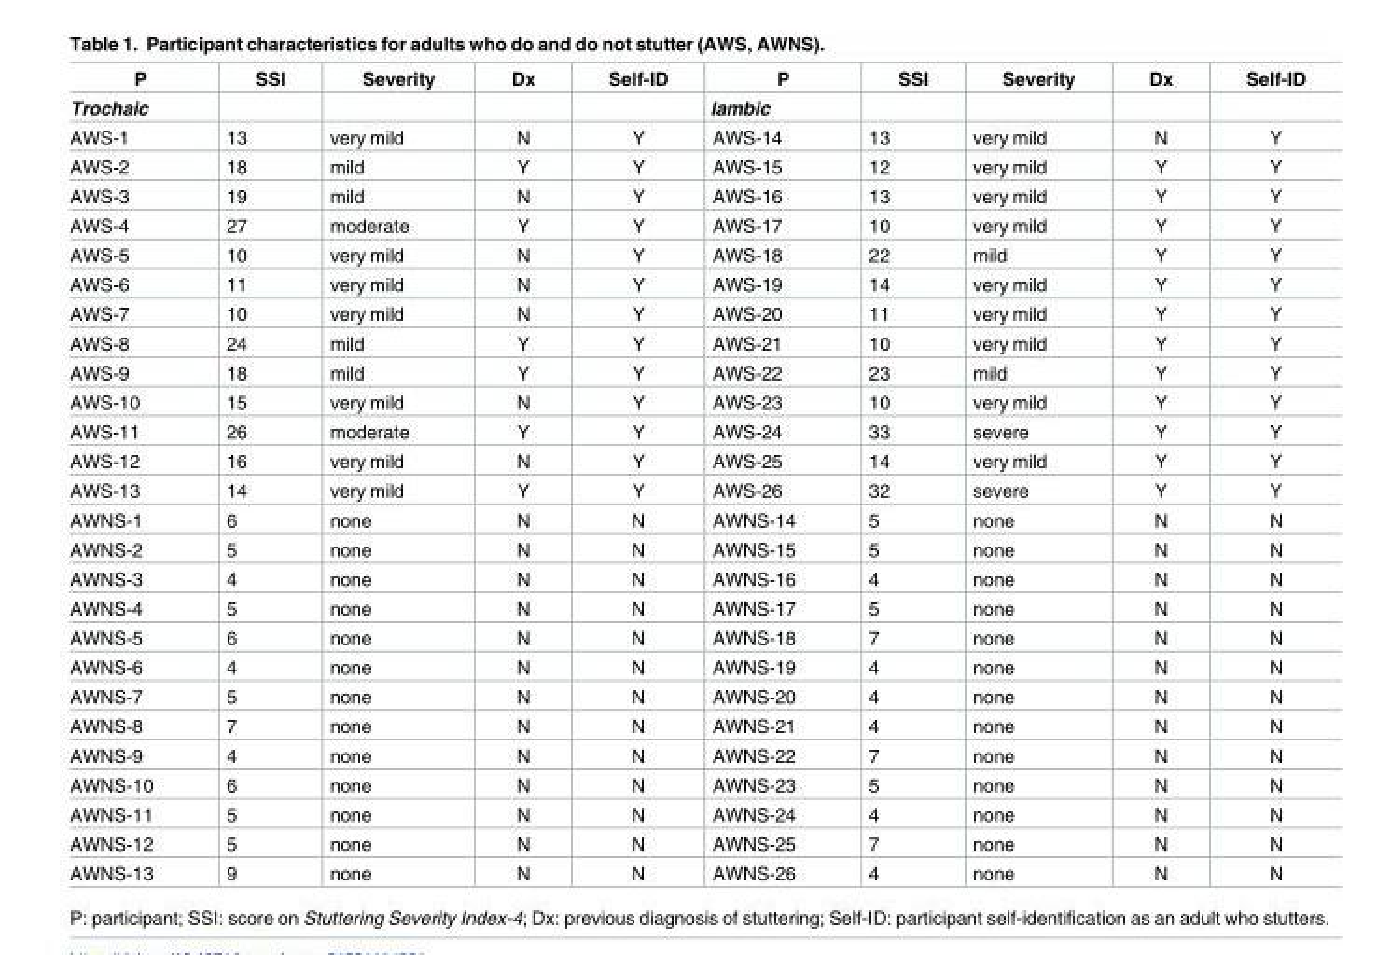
<table><thead><tr><td rowspan="2">P Trochaic</td><td rowspan="2">SSI</td><td rowspan="2">Severity</td><td rowspan="2">Dx</td><td rowspan="2">Self-ID</td><td rowspan="2">P Iambic</td><td rowspan="2">SSI</td><td rowspan="2">Severity</td><td rowspan="2">Dx</td><td rowspan="2">Self-ID</td></tr><tr></tr></thead><tbody><tr><td>AWS-1</td><td>13</td><td>very mild</td><td>N</td><td>Y</td><td>AWS-14</td><td>13</td><td>very mild</td><td>N</td><td>Y</td></tr><tr><td>AWS-2</td><td>18</td><td>mild</td><td>Y</td><td>Y</td><td>AWS-15</td><td>12</td><td>very mild</td><td>Y</td><td>Y</td></tr><tr><td>AWS-3</td><td>19</td><td>mild</td><td>N</td><td>Y</td><td>AWS-16</td><td>13</td><td>very mild</td><td>Y</td><td>Y</td></tr><tr><td>AWS-4</td><td>27</td><td>moderate</td><td>Y</td><td>Y</td><td>AWS-17</td><td>10</td><td>very mild</td><td>Y</td><td>Y</td></tr><tr><td>AWS-5</td><td>10</td><td>very mild</td><td>N</td><td>Y</td><td>AWS-18</td><td>22</td><td>mild</td><td>Y</td><td>Y</td></tr><tr><td>AWS-6</td><td>11</td><td>very mild</td><td>N</td><td>Y</td><td>AWS-19</td><td>14</td><td>very mild</td><td>Y</td><td>Y</td></tr><tr><td>AWS-7</td><td>10</td><td>very mild</td><td>N</td><td>Y</td><td>AWS-20</td><td>11</td><td>very mild</td><td>Y</td><td>Y</td></tr><tr><td>AWS-8</td><td>24</td><td>mild</td><td>Y</td><td>Y</td><td>AWS-21</td><td>10</td><td>very mild</td><td>Y</td><td>Y</td></tr><tr><td>AWS-9</td><td>18</td><td>mild</td><td>Y</td><td>Y</td><td>AWS-22</td><td>23</td><td>mild</td><td>Y</td><td>Y</td></tr><tr><td>AWS-10</td><td>15</td><td>very mild</td><td>N</td><td>Y</td><td>AWS-23</td><td>10</td><td>very mild</td><td>Y</td><td>Y</td></tr><tr><td>AWS-11</td><td>26</td><td>moderate</td><td>Y</td><td>Y</td><td>AWS-24</td><td>33</td><td>severe</td><td>Y</td><td>Y</td></tr><tr><td>AWS-12</td><td>16</td><td>very mild</td><td>N</td><td>Y</td><td>AWS-25</td><td>14</td><td>very mild</td><td>Y</td><td>Y</td></tr><tr><td>AWS-13</td><td>14</td><td>very mild</td><td>Y</td><td>Y</td><td>AWS-26</td><td>32</td><td>severe</td><td>Y</td><td>Y</td></tr><tr><td>AWNS-1</td><td>6</td><td>none</td><td>N</td><td>N</td><td>AWNS-14</td><td>5</td><td>none</td><td>N</td><td>N</td></tr><tr><td>AWNS-2</td><td>5</td><td>none</td><td>N</td><td>N</td><td>AWNS-15</td><td>5</td><td>none</td><td>N</td><td>N</td></tr><tr><td>AWNS-3</td><td>4</td><td>none</td><td>N</td><td>N</td><td>AWNS-16</td><td>4</td><td>none</td><td>N</td><td>N</td></tr><tr><td>AWNS-4</td><td>5</td><td>none</td><td>N</td><td>N</td><td>AWNS-17</td><td>5</td><td>none</td><td>N</td><td>N</td></tr><tr><td>AWNS-5</td><td>6</td><td>none</td><td>N</td><td>N</td><td>AWNS-18</td><td>7</td><td>none</td><td>N</td><td>N</td></tr><tr><td>AWNS-6</td><td>4</td><td>none</td><td>N</td><td>N</td><td>AWNS-19</td><td>4</td><td>none</td><td>N</td><td>N</td></tr><tr><td>AWNS-7</td><td>5</td><td>none</td><td>N</td><td>N</td><td>AWNS-20</td><td>4</td><td>none</td><td>N</td><td>N</td></tr><tr><td>AWNS-8</td><td>7</td><td>none</td><td>N</td><td>N</td><td>AWNS-21</td><td>4</td><td>none</td><td>N</td><td>N</td></tr><tr><td>AWNS-9</td><td>4</td><td>none</td><td>N</td><td>N</td><td>AWNS-22</td><td>7</td><td>none</td><td>N</td><td>N</td></tr><tr><td>AWNS-10</td><td>6</td><td>none</td><td>N</td><td>N</td><td>AWNS-23</td><td>5</td><td>none</td><td>N</td><td>N</td></tr><tr><td>AWNS-11</td><td>5</td><td>none</td><td>N</td><td>N</td><td>AWNS-24</td><td>4</td><td>none</td><td>N</td><td>N</td></tr><tr><td>AWNS-12</td><td>5</td><td>none</td><td>N</td><td>N</td><td>AWNS-25</td><td>7</td><td>none</td><td>N</td><td>N</td></tr><tr><td>AWNS-13</td><td>9</td><td>none</td><td>N</td><td>N</td><td>AWNS-26</td><td>4</td><td>none</td><td>N</td><td>N</td></tr></tbody></table>